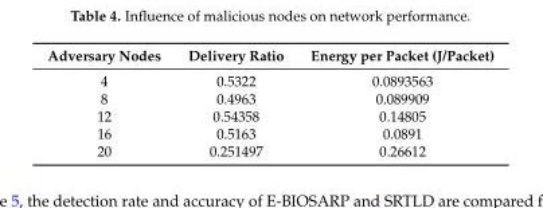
<table><thead><tr><td>Adversary Nodes</td><td>Delivery Ratio</td><td>Energy per Packet (J/Packet)</td></tr></thead><tbody><tr><td>4</td><td>0.5322</td><td>0.0893563</td></tr><tr><td>8</td><td>0.4963</td><td>0.089909</td></tr><tr><td>12</td><td>0.54358</td><td>0.14805</td></tr><tr><td>16</td><td>0.5163</td><td>0.0891</td></tr><tr><td>20</td><td>0.251497</td><td>0.26612</td></tr></tbody></table>